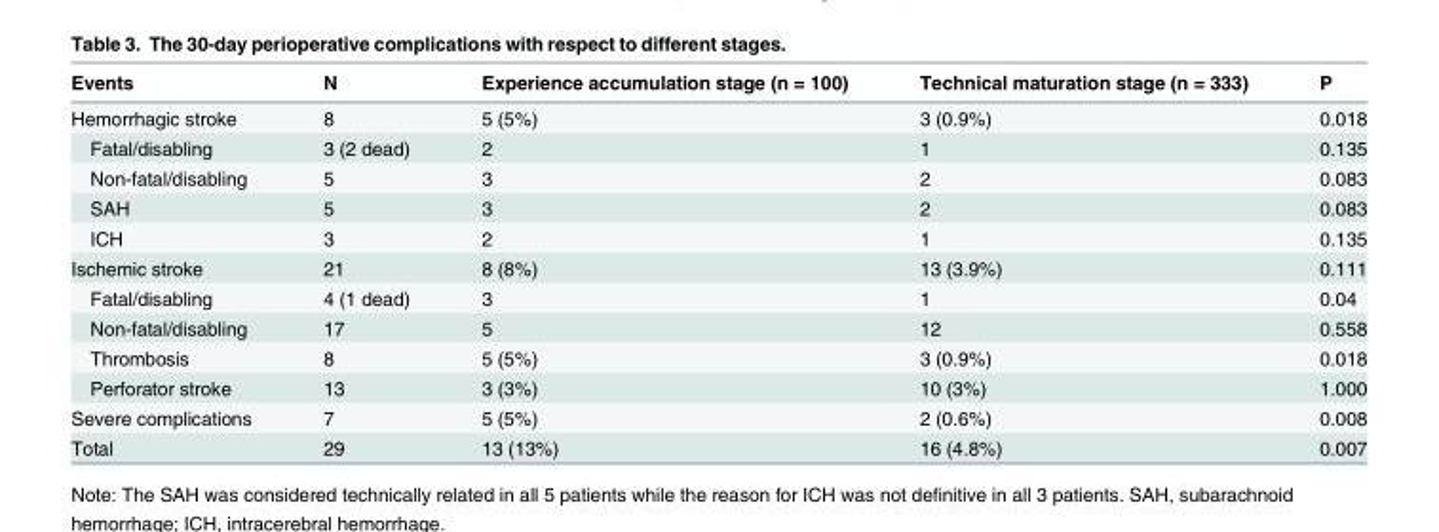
<table><thead><tr><td>Events</td><td>N</td><td>Experience accumulation stage (n = 100)</td><td>Technical maturation stage (n = 333)</td><td>P</td></tr></thead><tbody><tr><td>Hemorrhagic stroke</td><td>8</td><td>5 (5%)</td><td>3 (0.9%)</td><td>0.018</td></tr><tr><td>Fatal/disabling</td><td>3 (2 dead)</td><td>2</td><td>1</td><td>0.135</td></tr><tr><td>Non-fatal/disabling</td><td>5</td><td>3</td><td>2</td><td>0.083</td></tr><tr><td>SAH</td><td>5</td><td>3</td><td>2</td><td>0.083</td></tr><tr><td>ICH</td><td>3</td><td>2</td><td>1</td><td>0.135</td></tr><tr><td>Ischemic stroke</td><td>21</td><td>8 (8%)</td><td>13 (3.9%)</td><td>0.111</td></tr><tr><td>Fatal/disabling</td><td>4 (1 dead)</td><td>3</td><td>1</td><td>0.04</td></tr><tr><td>Non-fatal/disabling</td><td>17</td><td>5</td><td>12</td><td>0.558</td></tr><tr><td>Thrombosis</td><td>8</td><td>5 (5%)</td><td>3 (0.9%)</td><td>0.018</td></tr><tr><td>Perforator stroke</td><td>13</td><td>3 (3%)</td><td>10 (3%)</td><td>1.000</td></tr><tr><td>Severe complications</td><td>7</td><td>5 (5%)</td><td>2 (0.6%)</td><td>0.008</td></tr><tr><td>Total</td><td>29</td><td>13 (13%)</td><td>16 (4.8%)</td><td>0.007</td></tr></tbody></table>